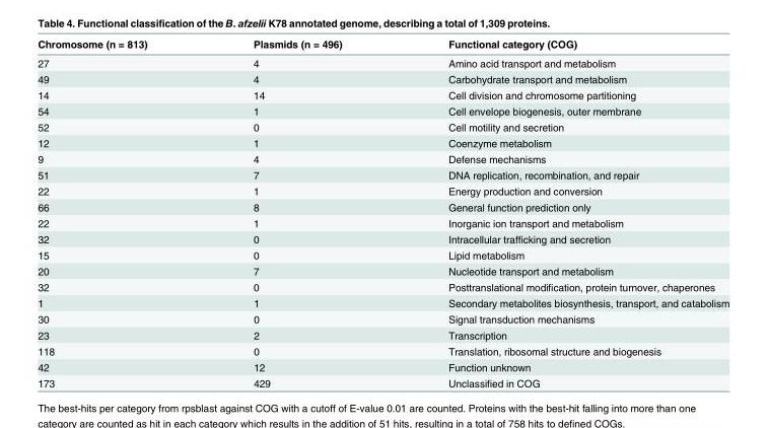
<table><thead><tr><td>Chromosome (n = 813)</td><td>Plasmids (n = 496)</td><td>Functional category (COG)</td></tr></thead><tbody><tr><td>27</td><td>4</td><td>Amino acid transport and metabolism</td></tr><tr><td>49</td><td>4</td><td>Carbohydrate transport and metabolism</td></tr><tr><td>14</td><td>14</td><td>Cell division and chromosome partitioning</td></tr><tr><td>54</td><td>1</td><td>Cell envelope biogenesis, outer membrane</td></tr><tr><td>52</td><td>0</td><td>Cell motility and secretion</td></tr><tr><td>12</td><td>1</td><td>Coenzyme metabolism</td></tr><tr><td>9</td><td>4</td><td>Defense mechanisms</td></tr><tr><td>51</td><td>7</td><td>DNA replication, recombination, and repair</td></tr><tr><td>22</td><td>1</td><td>Energy production and conversion</td></tr><tr><td>66</td><td>8</td><td>General function prediction only</td></tr><tr><td>22</td><td>1</td><td>Inorganic ion transport and metabolism</td></tr><tr><td>32</td><td>0</td><td>Intracellular trafficking and secretion</td></tr><tr><td>15</td><td>0</td><td>Lipid metabolism</td></tr><tr><td>20</td><td>7</td><td>Nucleotide transport and metabolism</td></tr><tr><td>32</td><td>0</td><td>Posttranslational modification, protein turnover, chaperones</td></tr><tr><td>1</td><td>1</td><td>Secondary metabolites biosynthesis, transport, and catabolism</td></tr><tr><td>30</td><td>0</td><td>Signal transduction mechanisms</td></tr><tr><td>23</td><td>2</td><td>Transcription</td></tr><tr><td>118</td><td>0</td><td>Translation, ribosomal structure and biogenesis</td></tr><tr><td>42</td><td>12</td><td>Function unknown</td></tr><tr><td>173</td><td>429</td><td>Unclassified in COG</td></tr></tbody></table>